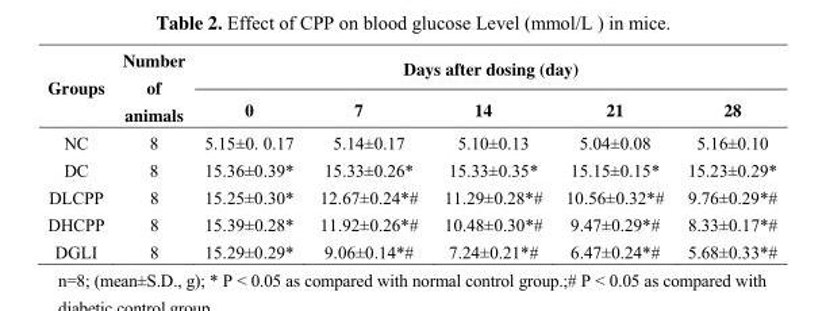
<table><thead><tr><td rowspan="2">Groups</td><td rowspan="2">Number of animals</td><td colspan="5">Days after dosing (day)</td></tr><tr><td>0</td><td>7</td><td>14</td><td>21</td><td>28</td></tr></thead><tbody><tr><td>NC</td><td>8</td><td>5.15±0. 0.17</td><td>5.14±0.17</td><td>5.10±0.13</td><td>5.04±0.08</td><td>5.16±0.10</td></tr><tr><td>DC</td><td>8</td><td>15.36±0.39*</td><td>15.33±0.26*</td><td>15.33±0.35*</td><td>15.15±0.15*</td><td>15.23±0.29*</td></tr><tr><td>DLCPP</td><td>8</td><td>15.25±0.30*</td><td>12.67±0.24*#</td><td>11.29±0.28*#</td><td>10.56±0.32*#</td><td>9.76±0.29*#</td></tr><tr><td>DHCPP</td><td>8</td><td>15.39±0.28*</td><td>11.92±0.26*#</td><td>10.48±0.30*#</td><td>9.47±0.29*#</td><td>8.33±0.17*#</td></tr><tr><td>DGLI</td><td>8</td><td>15.29±0.29*</td><td>9.06±0.14*#</td><td>7.24±0.21*#</td><td>6.47±0.24*#</td><td>5.68±0.33*#</td></tr></tbody></table>